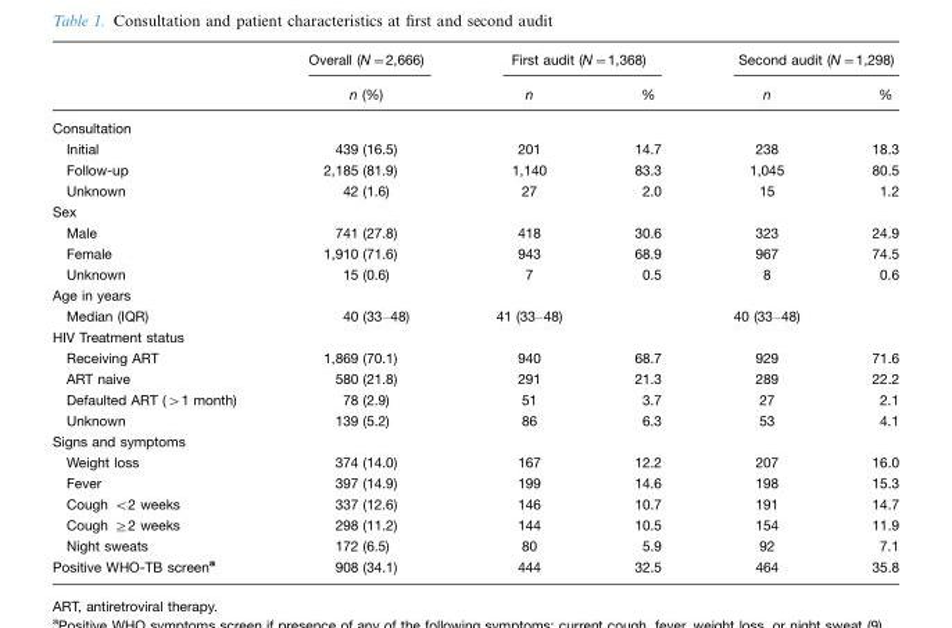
<table><thead><tr><td rowspan="2"></td><td rowspan="2">Overall (N=2,666) n (%)</td><td colspan="2">First audit (N=1,368)</td><td colspan="2">Second audit (N=1,298)</td></tr><tr><td>n</td><td>%</td><td>n</td><td>%</td></tr></thead><tbody><tr><td colspan="6">Consultation</td></tr><tr><td>Initial</td><td>439 (16.5)</td><td>201</td><td>14.7</td><td>238</td><td>18.3</td></tr><tr><td>Follow-up</td><td>2,185 (81.9)</td><td>1,140</td><td>83.3</td><td>1,045</td><td>80.5</td></tr><tr><td>Unknown</td><td>42 (1.6)</td><td>27</td><td>2.0</td><td>15</td><td>1.2</td></tr><tr><td colspan="6">Sex</td></tr><tr><td>Male</td><td>741 (27.8)</td><td>418</td><td>30.6</td><td>323</td><td>24.9</td></tr><tr><td>Female</td><td>1,910 (71.6)</td><td>943</td><td>68.9</td><td>967</td><td>74.5</td></tr><tr><td>Unknown</td><td>15 (0.6)</td><td>7</td><td>0.5</td><td>8</td><td>0.6</td></tr><tr><td colspan="6">Age in years</td></tr><tr><td>Median (IQR)</td><td>40 (33–48)</td><td>41 (33–48)</td><td></td><td>40 (33–48)</td><td></td></tr><tr><td colspan="6">HIV Treatment status</td></tr><tr><td>Receiving ART</td><td>1,869 (70.1)</td><td>940</td><td>68.7</td><td>929</td><td>71.6</td></tr><tr><td>ART naive</td><td>580 (21.8)</td><td>291</td><td>21.3</td><td>289</td><td>22.2</td></tr><tr><td>Defaulted ART (&gt;1 month)</td><td>78 (2.9)</td><td>51</td><td>3.7</td><td>27</td><td>2.1</td></tr><tr><td>Unknown</td><td>139 (5.2)</td><td>86</td><td>6.3</td><td>53</td><td>4.1</td></tr><tr><td colspan="6">Signs and symptoms</td></tr><tr><td>Weight loss</td><td>374 (14.0)</td><td>167</td><td>12.2</td><td>207</td><td>16.0</td></tr><tr><td>Fever</td><td>397 (14.9)</td><td>199</td><td>14.6</td><td>198</td><td>15.3</td></tr><tr><td>Cough &lt;2 weeks</td><td>337 (12.6)</td><td>146</td><td>10.7</td><td>191</td><td>14.7</td></tr><tr><td>Cough ≥2 weeks</td><td>298 (11.2)</td><td>144</td><td>10.5</td><td>154</td><td>11.9</td></tr><tr><td>Night sweats</td><td>172 (6.5)</td><td>80</td><td>5.9</td><td>92</td><td>7.1</td></tr><tr><td>Positive WHO-TB screena</td><td>908 (34.1)</td><td>444</td><td>32.5</td><td>464</td><td>35.8</td></tr></tbody></table>